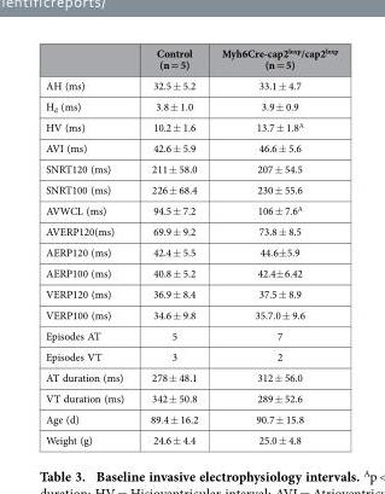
<table><thead><tr><td></td><td>Control (n = 5)</td><td>Myh6Cre-cap2<sup>loxp</sup>/cap2<sup>loxp</sup> (n = 5)</td></tr></thead><tbody><tr><td>AH (ms)</td><td>32.5 ± 5.2</td><td>33.1 ± 4.7</td></tr><tr><td>H<sub>d</sub> (ms)</td><td>3.8 ± 1.0</td><td>3.9 ± 0.9</td></tr><tr><td>HV (ms)</td><td>10.2 ± 1.6</td><td>13.7 ± 1.8<sup>A</sup></td></tr><tr><td>AVI (ms)</td><td>42.6 ± 5.9</td><td>46.6 ± 5.6</td></tr><tr><td>SNRT120 (ms)</td><td>211 ± 58.0</td><td>207 ± 54.5</td></tr><tr><td>SNRT100 (ms)</td><td>226 ± 68.4</td><td>230 ± 55.6</td></tr><tr><td>AVWCL (ms)</td><td>94.5 ± 7.2</td><td>106 ± 7.6<sup>A</sup></td></tr><tr><td>AVERP120(ms)</td><td>69.9 ± 9.2</td><td>73.8 ± 8.5</td></tr><tr><td>AERP120 (ms)</td><td>42.4 ± 5.5</td><td>44.6± 5.9</td></tr><tr><td>AERP100 (ms)</td><td>40.8 ± 5.2</td><td>42.4± 6.42</td></tr><tr><td>VERP120 (ms)</td><td>36.9 ± 8.4</td><td>37.5 ± 8.9</td></tr><tr><td>VERP100 (ms)</td><td>34.6 ± 9.8</td><td>35.7.0 ± 9.6</td></tr><tr><td>Episodes AT</td><td>5</td><td>7</td></tr><tr><td>Episodes VT</td><td>3</td><td>2</td></tr><tr><td>AT duration (ms)</td><td>278 ± 48.1</td><td>312 ± 56.0</td></tr><tr><td>VT duration (ms)</td><td>342 ± 50.8</td><td>289 ± 52.6</td></tr><tr><td>Age (d)</td><td>89.4 ± 16.2</td><td>90.7 ± 15.8</td></tr><tr><td>Weight (g)</td><td>24.6 ± 4.4</td><td>25.0 ± 4.8</td></tr></tbody></table>